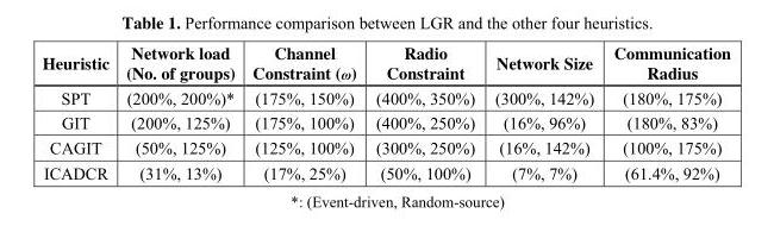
<table><thead><tr><td>Heuristic</td><td>Network load (No. of groups)</td><td>Channel Constraint (ω)</td><td>Radio Constraint</td><td>Network Size</td><td>Communication Radius</td></tr></thead><tbody><tr><td>SPT</td><td>(200%, 200%)*</td><td>(175%, 150%)</td><td>(400%, 350%)</td><td>(300%, 142%)</td><td>(180%, 175%)</td></tr><tr><td>GIT</td><td>(200%, 125%)</td><td>(175%, 100%)</td><td>(400%, 250%)</td><td>(16%, 96%)</td><td>(180%, 83%)</td></tr><tr><td>CAGIT</td><td>(50%, 125%)</td><td>(125%, 100%)</td><td>(300%, 250%)</td><td>(16%, 142%)</td><td>(100%, 175%)</td></tr><tr><td>ICADCR</td><td>(31%, 13%)</td><td>(17%, 25%)</td><td>(50%, 100%)</td><td>(7%, 7%)</td><td>(61.4%, 92%)</td></tr></tbody></table>